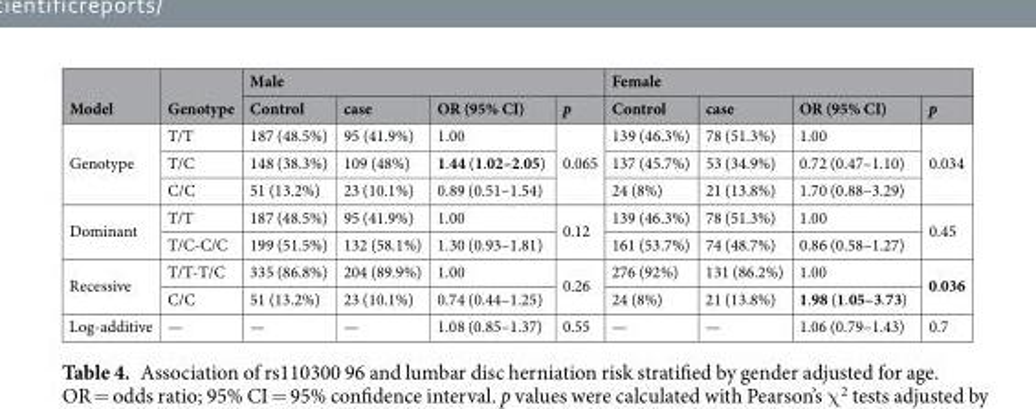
<table><thead><tr><td rowspan="2">Model</td><td rowspan="2">Genotype</td><td colspan="4">Male</td><td colspan="4">Female</td></tr><tr><td>Control</td><td>case</td><td>OR (95% CI)</td><td>p</td><td>Control</td><td>case</td><td>OR (95% CI)</td><td>p</td></tr></thead><tbody><tr><td rowspan="3">Genotype</td><td>T/T</td><td>187 (48.5%)</td><td>95 (41.9%)</td><td>1.00</td><td rowspan="3">0.065</td><td>139 (46.3%)</td><td>78 (51.3%)</td><td>1.00</td><td rowspan="3">0.034</td></tr><tr><td>T/C</td><td>148 (38.3%)</td><td>109 (48%)</td><td>1.44 (1.02–2.05)</td><td>137 (45.7%)</td><td>53 (34.9%)</td><td>0.72 (0.47–1.10)</td></tr><tr><td>C/C</td><td>51 (13.2%)</td><td>23 (10.1%)</td><td>0.89 (0.51–1.54)</td><td>24 (8%)</td><td>21 (13.8%)</td><td>1.70 (0.88–3.29)</td></tr><tr><td rowspan="2">Dominant</td><td>T/T</td><td>187 (48.5%)</td><td>95 (41.9%)</td><td>1.00</td><td rowspan="2">0.12</td><td>139 (46.3%)</td><td>78 (51.3%)</td><td>1.00</td><td rowspan="2">0.45</td></tr><tr><td>T/C-C/C</td><td>199 (51.5%)</td><td>132 (58.1%)</td><td>1.30 (0.93–1.81)</td><td>161 (53.7%)</td><td>74 (48.7%)</td><td>0.86 (0.58–1.27)</td></tr><tr><td rowspan="2">Recessive</td><td>T/T-T/C</td><td>335 (86.8%)</td><td>204 (89.9%)</td><td>1.00</td><td rowspan="2">0.26</td><td>276 (92%)</td><td>131 (86.2%)</td><td>1.00</td><td rowspan="2">0.036</td></tr><tr><td>C/C</td><td>51 (13.2%)</td><td>23 (10.1%)</td><td>0.74 (0.44–1.25)</td><td>24 (8%)</td><td>21 (13.8%)</td><td>1.98 (1.05–3.73)</td></tr><tr><td>Log-additive</td><td>—</td><td>—</td><td>—</td><td>1.08 (0.85–1.37)</td><td>0.55</td><td>—</td><td>—</td><td>1.06 (0.79–1.43)</td><td>0.7</td></tr></tbody></table>